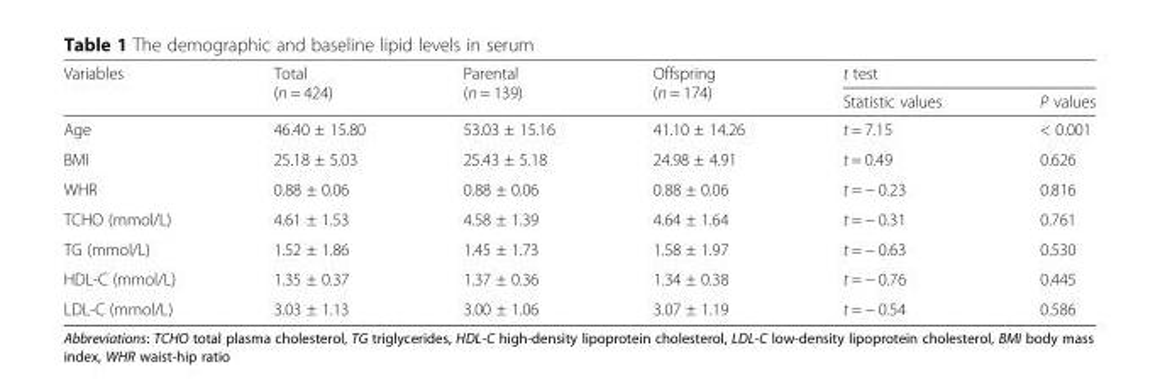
<table><thead><tr><td rowspan="2">Variables</td><td rowspan="2">Total (n = 424)</td><td rowspan="2">Parental (n = 139)</td><td rowspan="2">Offspring (n = 174)</td><td colspan="2">t test</td></tr><tr><td>Statistic values</td><td>P values</td></tr></thead><tbody><tr><td>Age</td><td>46.40 ± 15.80</td><td>53.03 ± 15.16</td><td>41.10 ± 14.26</td><td>t = 7.15</td><td>&lt; 0.001</td></tr><tr><td>BMI</td><td>25.18 ± 5.03</td><td>25.43 ± 5.18</td><td>24.98 ± 4.91</td><td>t = 0.49</td><td>0.626</td></tr><tr><td>WHR</td><td>0.88 ± 0.06</td><td>0.88 ± 0.06</td><td>0.88 ± 0.06</td><td>t = − 0.23</td><td>0.816</td></tr><tr><td>TCHO (mmol/L)</td><td>4.61 ± 1.53</td><td>4.58 ± 1.39</td><td>4.64 ± 1.64</td><td>t = − 0.31</td><td>0.761</td></tr><tr><td>TG (mmol/L)</td><td>1.52 ± 1.86</td><td>1.45 ± 1.73</td><td>1.58 ± 1.97</td><td>t = − 0.63</td><td>0.530</td></tr><tr><td>HDL-C (mmol/L)</td><td>1.35 ± 0.37</td><td>1.37 ± 0.36</td><td>1.34 ± 0.38</td><td>t = − 0.76</td><td>0.445</td></tr><tr><td>LDL-C (mmol/L)</td><td>3.03 ± 1.13</td><td>3.00 ± 1.06</td><td>3.07 ± 1.19</td><td>t = − 0.54</td><td>0.586</td></tr></tbody></table>